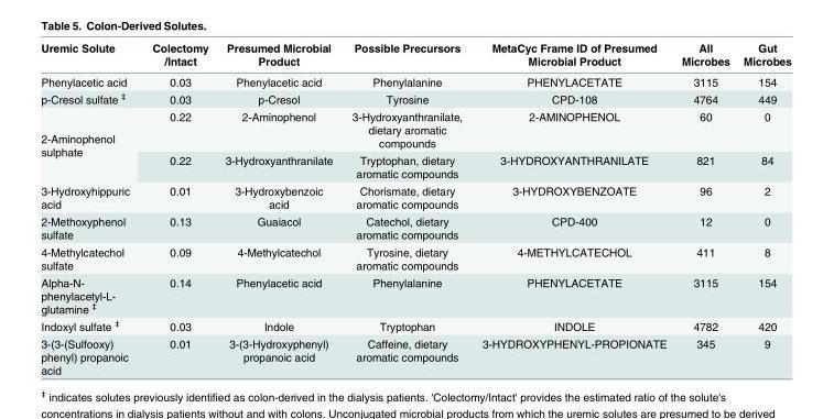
<table><thead><tr><td>Uremic Solute</td><td>Colectomy /Intact</td><td>Presumed Microbial Product</td><td>Possible Precursors</td><td>MetaCyc Frame ID of Presumed Microbial Product</td><td>All Microbes</td><td>Gut Microbes</td></tr></thead><tbody><tr><td>Phenylacetic acid</td><td>0.03</td><td>Phenylacetic acid</td><td>Phenylalanine</td><td>PHENYLACETATE</td><td>3115</td><td>154</td></tr><tr><td>p-Cresol sulfate <sup>‡</sup></td><td>0.03</td><td>p-Cresol</td><td>Tyrosine</td><td>CPD-108</td><td>4764</td><td>449</td></tr><tr><td rowspan="2">2-Aminophenol sulphate</td><td>0.22</td><td>2-Aminophenol</td><td>3-Hydroxyanthranilate, dietary aromatic compounds</td><td>2-AMINOPHENOL</td><td>60</td><td>0</td></tr><tr><td>0.22</td><td>3-Hydroxyanthranilate</td><td>Tryptophan, dietary aromatic compounds</td><td>3-HYDROXYANTHRANILATE</td><td>821</td><td>84</td></tr><tr><td>3-Hydroxyhippuric acid</td><td>0.01</td><td>3-Hydroxybenzoic acid</td><td>Chorismate, dietary aromatic compounds</td><td>3-HYDROXYBENZOATE</td><td>96</td><td>2</td></tr><tr><td>2-Methoxyphenol sulfate</td><td>0.13</td><td>Guaiacol</td><td>Catechol, dietary aromatic compounds</td><td>CPD-400</td><td>12</td><td>0</td></tr><tr><td>4-Methylcatechol sulfate</td><td>0.09</td><td>4-Methylcatechol</td><td>Tyrosine, dietary aromatic compounds</td><td>4-METHYLCATECHOL</td><td>411</td><td>8</td></tr><tr><td>Alpha-N- phenylacetyl-L- glutamine <sup>‡</sup></td><td>0.14</td><td>Phenylacetic acid</td><td>Phenylalanine</td><td>PHENYLACETATE</td><td>3115</td><td>154</td></tr><tr><td>Indoxyl sulfate <sup>‡</sup></td><td>0.03</td><td>Indole</td><td>Tryptophan</td><td>INDOLE</td><td>4782</td><td>420</td></tr><tr><td>3-(3-(Sulfooxy) phenyl) propanoic acid</td><td>0.01</td><td>3-(3-Hydroxyphenyl) propanoic acid</td><td>Caffeine, dietary aromatic compounds</td><td>3-HYDROXYPHENYL-PROPIONATE</td><td>345</td><td>9</td></tr></tbody></table>